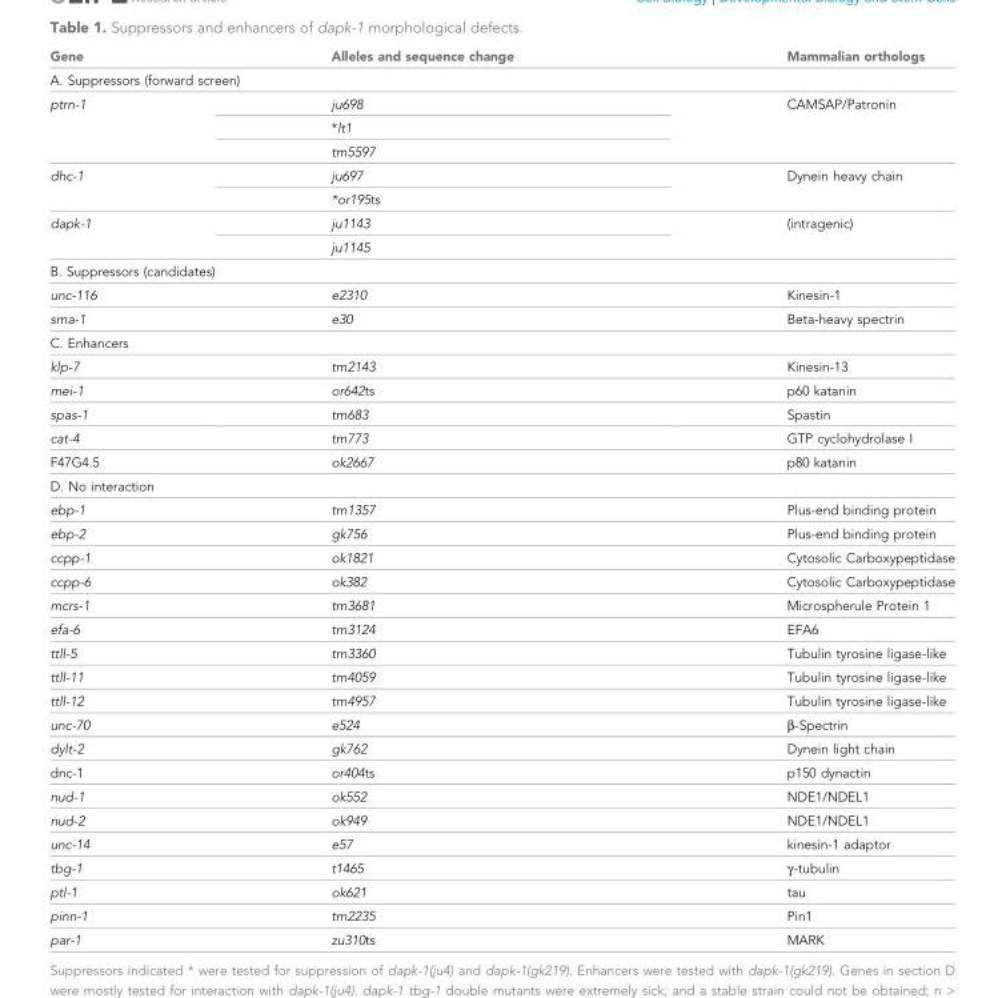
<table><thead><tr><td>Gene</td><td>Alleles and sequence change</td><td>Mammalian orthologs</td></tr></thead><tbody><tr><td colspan="3">A. Suppressors (forward screen)</td></tr><tr><td rowspan="3">ptrn-1</td><td>ju698</td><td rowspan="3">CAMSAP/Patronin</td></tr><tr><td>*lt1</td></tr><tr><td>tm5597</td></tr><tr><td rowspan="2">dhc-1</td><td>ju697</td><td rowspan="2">Dynein heavy chain</td></tr><tr><td>*or195ts</td></tr><tr><td rowspan="2">dapk-1</td><td>ju1143</td><td rowspan="2">(intragenic)</td></tr><tr><td>ju1145</td></tr><tr><td colspan="3">B. Suppressors (candidates)</td></tr><tr><td>unc-116</td><td>e2310</td><td>Kinesin-1</td></tr><tr><td>sma-1</td><td>e30</td><td>Beta-heavy spectrin</td></tr><tr><td colspan="3">C. Enhancers</td></tr><tr><td>klp-7</td><td>tm2143</td><td>Kinesin-13</td></tr><tr><td>mei-1</td><td>or642ts</td><td>p60 katanin</td></tr><tr><td>spas-1</td><td>tm683</td><td>Spastin</td></tr><tr><td>cat-4</td><td>tm773</td><td>GTP cyclohydrolase I</td></tr><tr><td>F47G4.5</td><td>ok2667</td><td>p80 katanin</td></tr><tr><td colspan="3">D. No interaction</td></tr><tr><td>ebp-1</td><td>tm1357</td><td>Plus-end binding protein</td></tr><tr><td>ebp-2</td><td>gk756</td><td>Plus-end binding protein</td></tr><tr><td>ccpp-1</td><td>ok1821</td><td>Cytosolic Carboxypeptidase</td></tr><tr><td>ccpp-6</td><td>ok382</td><td>Cytosolic Carboxypeptidase</td></tr><tr><td>mcrs-1</td><td>tm3681</td><td>Microspherule Protein 1</td></tr><tr><td>efa-6</td><td>tm3124</td><td>EFA6</td></tr><tr><td>ttll-5</td><td>tm3360</td><td>Tubulin tyrosine ligase-like</td></tr><tr><td>ttll-11</td><td>tm4059</td><td>Tubulin tyrosine ligase-like</td></tr><tr><td>ttll-12</td><td>tm4957</td><td>Tubulin tyrosine ligase-like</td></tr><tr><td>unc-70</td><td>e524</td><td>β-Spectrin</td></tr><tr><td>dylt-2</td><td>gk762</td><td>Dynein light chain</td></tr><tr><td>dnc-1</td><td>or404ts</td><td>p150 dynactin</td></tr><tr><td>nud-1</td><td>ok552</td><td>NDE1/NDEL1</td></tr><tr><td>nud-2</td><td>ok949</td><td>NDE1/NDEL1</td></tr><tr><td>unc-14</td><td>e57</td><td>kinesin-1 adaptor</td></tr><tr><td>tbg-1</td><td>t1465</td><td>γ-tubulin</td></tr><tr><td>ptl-1</td><td>ok621</td><td>tau</td></tr><tr><td>pinn-1</td><td>tm2235</td><td>Pin1</td></tr><tr><td>par-1</td><td>zu310ts</td><td>MARK</td></tr></tbody></table>